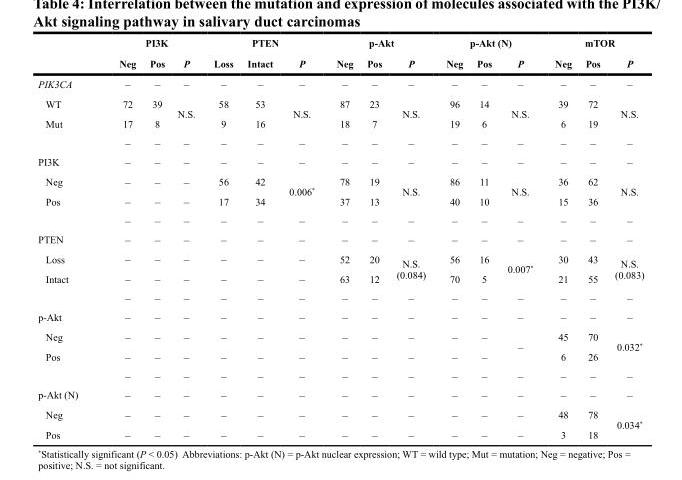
<table><thead><tr><td rowspan="2"></td><td colspan="3">PI3K</td><td colspan="3">PTEN</td><td colspan="3">p-Akt</td><td colspan="3">p-Akt (N)</td><td colspan="3">mTOR</td></tr><tr><td>Neg</td><td>Pos</td><td>P</td><td>Loss</td><td>Intact</td><td>P</td><td>Neg</td><td>Pos</td><td>P</td><td>Neg</td><td>Pos</td><td>P</td><td>Neg</td><td>Pos</td><td>P</td></tr></thead><tbody><tr><td>PIK3CA</td><td>–</td><td>–</td><td>–</td><td>–</td><td>–</td><td>–</td><td>–</td><td>–</td><td>–</td><td>–</td><td>–</td><td>–</td><td>–</td><td>–</td><td>–</td></tr><tr><td>WT</td><td>72</td><td>39</td><td rowspan="2">N.S.</td><td>58</td><td>53</td><td rowspan="2">N.S.</td><td>87</td><td>23</td><td rowspan="2">N.S.</td><td>96</td><td>14</td><td rowspan="2">N.S.</td><td>39</td><td>72</td><td rowspan="2">N.S.</td></tr><tr><td rowspan="2">Mut</td><td>17</td><td>8</td><td>9</td><td>16</td><td>18</td><td>7</td><td>19</td><td>6</td><td>6</td><td>19</td></tr><tr><td>–</td><td>–</td><td>–</td><td>–</td><td>–</td><td>–</td><td>–</td><td>–</td><td>–</td><td>–</td><td>–</td><td>–</td><td>–</td><td>–</td><td>–</td></tr><tr><td>PI3K</td><td>–</td><td>–</td><td>–</td><td>–</td><td>–</td><td>–</td><td>–</td><td>–</td><td>–</td><td>–</td><td>–</td><td>–</td><td>–</td><td>–</td><td>–</td></tr><tr><td>Neg</td><td>–</td><td>–</td><td>–</td><td>56</td><td>42</td><td rowspan="2">0.006*</td><td>78</td><td>19</td><td rowspan="2">N.S.</td><td>86</td><td>11</td><td rowspan="2">N.S.</td><td>36</td><td>62</td><td rowspan="2">N.S.</td></tr><tr><td rowspan="2">Pos</td><td>–</td><td>–</td><td>–</td><td>17</td><td>34</td><td>37</td><td>13</td><td>40</td><td>10</td><td>15</td><td>36</td></tr><tr><td>–</td><td>–</td><td>–</td><td>–</td><td>–</td><td>–</td><td>–</td><td>–</td><td>–</td><td>–</td><td>–</td><td>–</td><td>–</td><td>–</td><td>–</td></tr><tr><td>PTEN</td><td>–</td><td>–</td><td>–</td><td>–</td><td>–</td><td>–</td><td>–</td><td>–</td><td>–</td><td>–</td><td>–</td><td>–</td><td>–</td><td>–</td><td>–</td></tr><tr><td>Loss</td><td>–</td><td>–</td><td>–</td><td>–</td><td>–</td><td>–</td><td>52</td><td>20</td><td rowspan="2">N.S. (0.084)</td><td>56</td><td>16</td><td rowspan="2">0.007*</td><td>30</td><td>43</td><td rowspan="2">N.S. (0.083)</td></tr><tr><td rowspan="2">Intact</td><td>–</td><td>–</td><td>–</td><td>–</td><td>–</td><td>–</td><td>63</td><td>12</td><td>70</td><td>5</td><td>21</td><td>55</td></tr><tr><td>–</td><td>–</td><td>–</td><td>–</td><td>–</td><td>–</td><td>–</td><td>–</td><td>–</td><td>–</td><td>–</td><td>–</td><td>–</td><td>–</td><td>–</td></tr><tr><td>p-Akt</td><td>–</td><td>–</td><td>–</td><td>–</td><td>–</td><td>–</td><td>–</td><td>–</td><td>–</td><td>–</td><td>–</td><td>–</td><td>–</td><td>–</td><td>–</td></tr><tr><td>Neg</td><td>–</td><td>–</td><td>–</td><td>–</td><td>–</td><td>–</td><td>–</td><td>–</td><td>–</td><td>–</td><td>–</td><td rowspan="2">–</td><td>45</td><td>70</td><td rowspan="2">0.032*</td></tr><tr><td rowspan="2">Pos</td><td>–</td><td>–</td><td>–</td><td>–</td><td>–</td><td>–</td><td>–</td><td>–</td><td>–</td><td>–</td><td>–</td><td>6</td><td>26</td></tr><tr><td>–</td><td>–</td><td>–</td><td>–</td><td>–</td><td>–</td><td>–</td><td>–</td><td>–</td><td>–</td><td>–</td><td>–</td><td>–</td><td>–</td><td>–</td></tr><tr><td>p-Akt (N)</td><td>–</td><td>–</td><td>–</td><td>–</td><td>–</td><td>–</td><td>–</td><td>–</td><td>–</td><td>–</td><td>–</td><td>–</td><td>–</td><td>–</td><td>–</td></tr><tr><td>Neg</td><td>–</td><td>–</td><td>–</td><td>–</td><td>–</td><td>–</td><td>–</td><td>–</td><td>–</td><td>–</td><td>–</td><td>–</td><td>48</td><td>78</td><td rowspan="2">0.034*</td></tr><tr><td>Pos</td><td>–</td><td>–</td><td>–</td><td>–</td><td>–</td><td>–</td><td>–</td><td>–</td><td>–</td><td>–</td><td>–</td><td>–</td><td>3</td><td>18</td></tr></tbody></table>